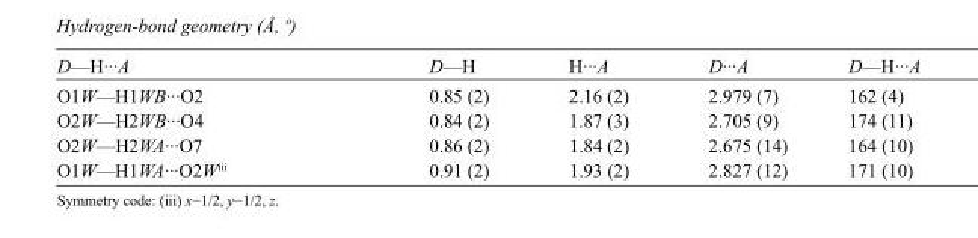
<table><tbody><tr><td>D—H···A</td><td>D—H</td><td>H···A</td><td>D···A</td><td>D—H···A</td></tr><tr><td>O1W—H1WB···O2</td><td>0.85 (2)</td><td>2.16 (2)</td><td>2.979 (7)</td><td>162 (4)</td></tr><tr><td>O2W—H2WB···O4</td><td>0.84 (2)</td><td>1.87 (3)</td><td>2.705 (9)</td><td>174 (11)</td></tr><tr><td>O2W—H2WA···O7</td><td>0.86 (2)</td><td>1.84 (2)</td><td>2.675 (14)</td><td>164 (10)</td></tr><tr><td>O1W—H1WA···O2W<sup>iii</sup></td><td>0.91 (2)</td><td>1.93 (2)</td><td>2.827 (12)</td><td>171 (10)</td></tr></tbody></table>